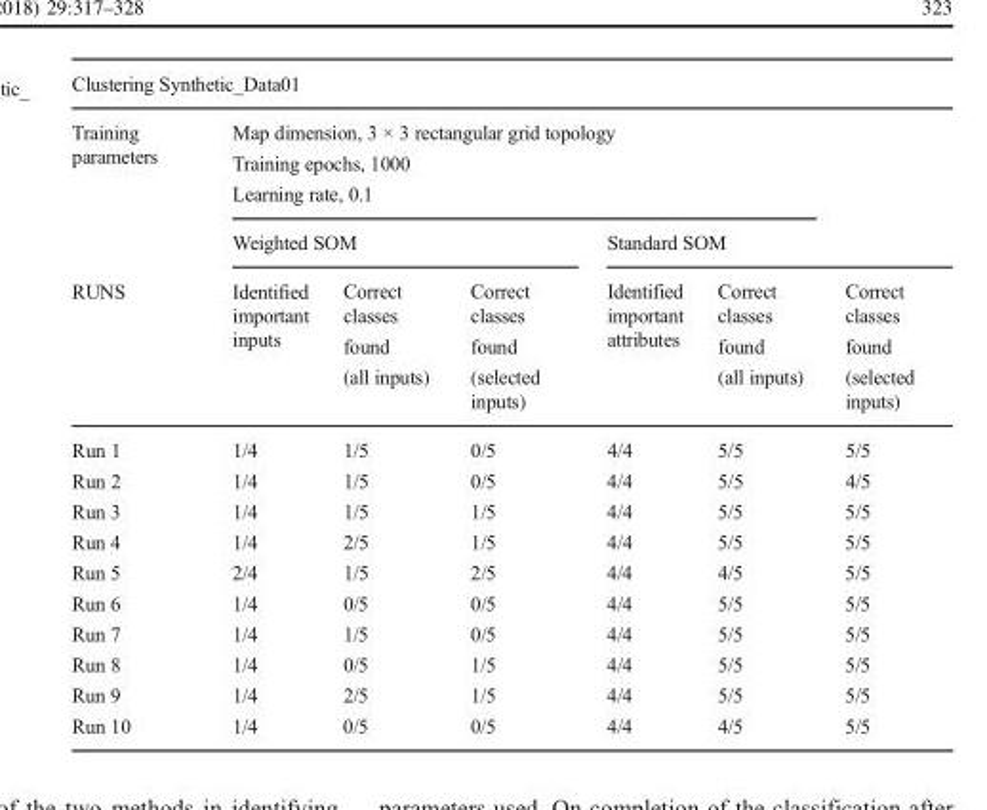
<table><thead><tr><td colspan="7">Clustering Synthetic_Data01</td></tr><tr><td rowspan="3">Training parameters RUNS</td><td colspan="5">Map dimension, 3 × 3 rectangular grid topology Training epochs, 1000 Learning rate, 0.1</td><td></td></tr><tr><td colspan="3">Weighted SOM</td><td colspan="3">Standard SOM</td></tr><tr><td>Identified important inputs</td><td>Correct classes found (all inputs)</td><td>Correct classes found (selected inputs)</td><td>Identified important attributes</td><td>Correct classes found (all inputs)</td><td>Correct classes found (selected inputs)</td></tr></thead><tbody><tr><td>Run 1</td><td>1/4</td><td>1/5</td><td>0/5</td><td>4/4</td><td>5/5</td><td>5/5</td></tr><tr><td>Run 2</td><td>1/4</td><td>1/5</td><td>0/5</td><td>4/4</td><td>5/5</td><td>4/5</td></tr><tr><td>Run 3</td><td>1/4</td><td>1/5</td><td>1/5</td><td>4/4</td><td>5/5</td><td>5/5</td></tr><tr><td>Run 4</td><td>1/4</td><td>2/5</td><td>1/5</td><td>4/4</td><td>5/5</td><td>5/5</td></tr><tr><td>Run 5</td><td>2/4</td><td>1/5</td><td>2/5</td><td>4/4</td><td>4/5</td><td>5/5</td></tr><tr><td>Run 6</td><td>1/4</td><td>0/5</td><td>0/5</td><td>4/4</td><td>5/5</td><td>5/5</td></tr><tr><td>Run 7</td><td>1/4</td><td>1/5</td><td>0/5</td><td>4/4</td><td>5/5</td><td>5/5</td></tr><tr><td>Run 8</td><td>1/4</td><td>0/5</td><td>1/5</td><td>4/4</td><td>5/5</td><td>5/5</td></tr><tr><td>Run 9</td><td>1/4</td><td>2/5</td><td>1/5</td><td>4/4</td><td>5/5</td><td>5/5</td></tr><tr><td>Run 10</td><td>1/4</td><td>0/5</td><td>0/5</td><td>4/4</td><td>4/5</td><td>5/5</td></tr></tbody></table>